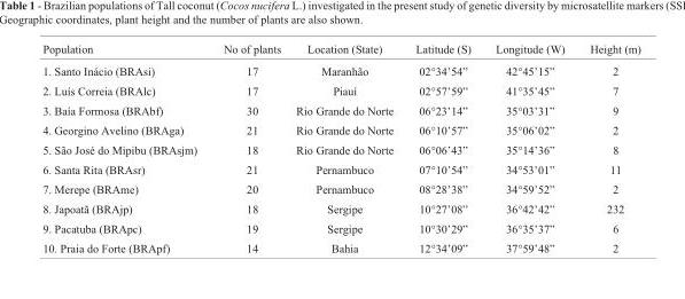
<table><thead><tr><td>Population</td><td>No of plants</td><td>Location (State)</td><td>Latitude (S)</td><td>Longitude (W)</td><td>Height (m)</td></tr></thead><tbody><tr><td>1. Santo Inácio (BRAsi)</td><td>17</td><td>Maranhão</td><td>02°34’54”</td><td>42°45’15”</td><td>2</td></tr><tr><td>2. Luís Correia (BRAlc)</td><td>17</td><td>Piauí</td><td>02°57’59”</td><td>41°35’45”</td><td>7</td></tr><tr><td>3. Baía Formosa (BRAbf)</td><td>30</td><td>Rio Grande do Norte</td><td>06°23’14”</td><td>35°03’31”</td><td>9</td></tr><tr><td>4. Georgino Avelino (BRAga)</td><td>21</td><td>Rio Grande do Norte</td><td>06°10’57”</td><td>35°06’02”</td><td>2</td></tr><tr><td>5. São José do Mipibu (BRAsjm)</td><td>18</td><td>Rio Grande do Norte</td><td>06°06’43”</td><td>35°14’36”</td><td>8</td></tr><tr><td>6. Santa Rita (BRAsr)</td><td>21</td><td>Pernambuco</td><td>07°10’54”</td><td>34°53’01”</td><td>11</td></tr><tr><td>7. Merepe (BRAme)</td><td>20</td><td>Pernambuco</td><td>08°28’38”</td><td>34°59’52”</td><td>2</td></tr><tr><td>8. Japoatã (BRAjp)</td><td>18</td><td>Sergipe</td><td>10°27’08”</td><td>36°42’42”</td><td>232</td></tr><tr><td>9. Pacatuba (BRApc)</td><td>19</td><td>Sergipe</td><td>10°30’29”</td><td>36°35’37”</td><td>6</td></tr><tr><td>10. Praia do Forte (BRApf)</td><td>14</td><td>Bahia</td><td>12°34’09”</td><td>37°59’48”</td><td>2</td></tr></tbody></table>